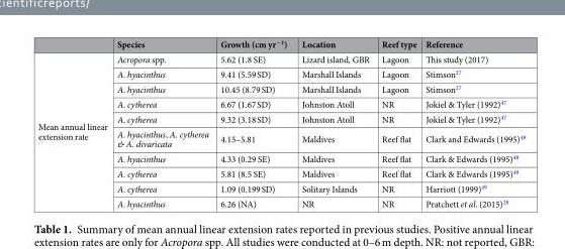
<table><thead><tr><td></td><td>Species</td><td>Growth (cm yr<sup>−1</sup>)</td><td>Location</td><td>Reef type</td><td>Reference</td></tr></thead><tbody><tr><td rowspan="10">Mean annual linear extension rate</td><td>Acropora spp.</td><td>5.62 (1.8 SE)</td><td>Lizard island, GBR</td><td>Lagoon</td><td>This study (2017)</td></tr><tr><td>A. hyacinthus</td><td>9.41 (5.59 SD)</td><td>Marshall Islands</td><td>Lagoon</td><td>Stimson<sup>27</sup></td></tr><tr><td>A. hyacinthus</td><td>10.45 (8.79 SD)</td><td>Marshall Islands</td><td>Lagoon</td><td>Stimson<sup>27</sup></td></tr><tr><td>A. cytherea</td><td>6.67 (1.67 SD)</td><td>Johnston Atoll</td><td>NR</td><td>Jokiel &amp; Tyler (1992)<sup>47</sup></td></tr><tr><td>A. cytherea</td><td>9.32 (3.18 SD)</td><td>Johnston Atoll</td><td>NR</td><td>Jokiel &amp; Tyler (1992)<sup>47</sup></td></tr><tr><td>A. hyacinthus, A. cytherea &amp; A. divaricata</td><td>4.15–5.81</td><td>Maldives</td><td>Reef flat</td><td>Clark and Edwards (1995)<sup>48</sup></td></tr><tr><td>A. hyacinthus</td><td>4.33 (0.29 SE)</td><td>Maldives</td><td>Reef flat</td><td>Clark &amp; Edwards (1995)<sup>48</sup></td></tr><tr><td>A. cytherea</td><td>5.81 (8.5 SE)</td><td>Maldives</td><td>Reef flat</td><td>Clark &amp; Edwards (1995)<sup>48</sup></td></tr><tr><td>A. cytherea</td><td>1.09 (0.199 SD)</td><td>Solitary Islands</td><td>NR</td><td>Harriott (1999)<sup>49</sup></td></tr><tr><td>A. hyacinthus</td><td>6.26 (NA)</td><td>NR</td><td>NR</td><td>Pratchett et al. (2015)<sup>28</sup></td></tr></tbody></table>